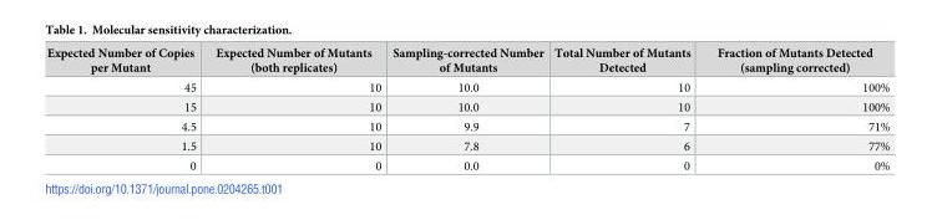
<table><thead><tr><td>Expected Number of Copies per Mutant</td><td>Expected Number of Mutants (both replicates)</td><td>Sampling-corrected Number of Mutants</td><td>Total Number of Mutants Detected</td><td>Fraction of Mutants Detected (sampling corrected)</td></tr></thead><tbody><tr><td>45</td><td>10</td><td>10.0</td><td>10</td><td>100%</td></tr><tr><td>15</td><td>10</td><td>10.0</td><td>10</td><td>100%</td></tr><tr><td>4.5</td><td>10</td><td>9.9</td><td>7</td><td>71%</td></tr><tr><td>1.5</td><td>10</td><td>7.8</td><td>6</td><td>77%</td></tr><tr><td>0</td><td>0</td><td>0.0</td><td>0</td><td>0%</td></tr></tbody></table>